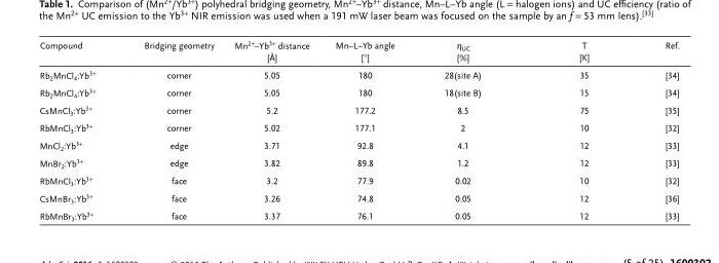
<table><thead><tr><td>Compound</td><td>Bridging geometry</td><td>Mn<sup>2+</sup>–Yb<sup>3+</sup> distance [Å]</td><td>Mn–L–Yb angle [°]</td><td>η<sub>UC</sub> [%]</td><td>T [K]</td><td>Ref.</td></tr></thead><tbody><tr><td>Rb<sub>2</sub>MnCl<sub>4</sub>:Yb<sup>3+</sup></td><td>corner</td><td>5.05</td><td>180</td><td>28(site A)</td><td>35</td><td>[34]</td></tr><tr><td>Rb<sub>2</sub>MnCl<sub>4</sub>:Yb<sup>3+</sup></td><td>corner</td><td>5.05</td><td>180</td><td>18(site B)</td><td>15</td><td>[34]</td></tr><tr><td>CsMnCl<sub>3</sub>:Yb<sup>3+</sup></td><td>corner</td><td>5.2</td><td>177.2</td><td>8.5</td><td>75</td><td>[35]</td></tr><tr><td>RbMnCl<sub>3</sub>:Yb<sup>3+</sup></td><td>corner</td><td>5.02</td><td>177.1</td><td>2</td><td>10</td><td>[32]</td></tr><tr><td>MnCl<sub>2</sub>:Yb<sup>3+</sup></td><td>edge</td><td>3.71</td><td>92.8</td><td>4.1</td><td>12</td><td>[33]</td></tr><tr><td>MnBr<sub>2</sub>:Yb<sup>3+</sup></td><td>edge</td><td>3.82</td><td>89.8</td><td>1.2</td><td>12</td><td>[33]</td></tr><tr><td>RbMnCl<sub>3</sub>:Yb<sup>3+</sup></td><td>face</td><td>3.2</td><td>77.9</td><td>0.02</td><td>10</td><td>[32]</td></tr><tr><td>CsMnBr<sub>3</sub>:Yb<sup>3+</sup></td><td>face</td><td>3.26</td><td>74.8</td><td>0.05</td><td>12</td><td>[36]</td></tr><tr><td>RbMnBr<sub>3</sub>:Yb<sup>3+</sup></td><td>face</td><td>3.37</td><td>76.1</td><td>0.05</td><td>12</td><td>[33]</td></tr></tbody></table>